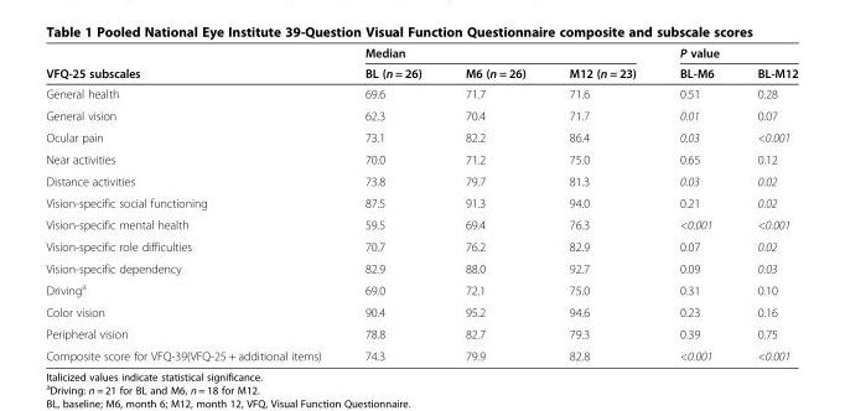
<table><thead><tr><td rowspan="2">VFQ-25 subscales</td><td colspan="3">Median</td><td colspan="2">P value</td></tr><tr><td>BL (n = 26)</td><td>M6 (n = 26)</td><td>M12 (n = 23)</td><td>BL-M6</td><td>BL-M12</td></tr></thead><tbody><tr><td>General health</td><td>69.6</td><td>71.7</td><td>71.6</td><td>0.51</td><td>0.28</td></tr><tr><td>General vision</td><td>62.3</td><td>70.4</td><td>71.7</td><td>0.01</td><td>0.07</td></tr><tr><td>Ocular pain</td><td>73.1</td><td>82.2</td><td>86.4</td><td>0.03</td><td>&lt;0.001</td></tr><tr><td>Near activities</td><td>70.0</td><td>71.2</td><td>75.0</td><td>0.65</td><td>0.12</td></tr><tr><td>Distance activities</td><td>73.8</td><td>79.7</td><td>81.3</td><td>0.03</td><td>0.02</td></tr><tr><td>Vision-specific social functioning</td><td>87.5</td><td>91.3</td><td>94.0</td><td>0.21</td><td>0.02</td></tr><tr><td>Vision-specific mental health</td><td>59.5</td><td>69.4</td><td>76.3</td><td>&lt;0.001</td><td>&lt;0.001</td></tr><tr><td>Vision-specific role difficulties</td><td>70.7</td><td>76.2</td><td>82.9</td><td>0.07</td><td>0.02</td></tr><tr><td>Vision-specific dependency</td><td>82.9</td><td>88.0</td><td>92.7</td><td>0.09</td><td>0.03</td></tr><tr><td>Driving<sup>a</sup></td><td>69.0</td><td>72.1</td><td>75.0</td><td>0.31</td><td>0.10</td></tr><tr><td>Color vision</td><td>90.4</td><td>95.2</td><td>94.6</td><td>0.23</td><td>0.16</td></tr><tr><td>Peripheral vision</td><td>78.8</td><td>82.7</td><td>79.3</td><td>0.39</td><td>0.75</td></tr><tr><td>Composite score for VFQ-39(VFQ-25 + additional items)</td><td>74.3</td><td>79.9</td><td>82.8</td><td>&lt;0.001</td><td>&lt;0.001</td></tr></tbody></table>